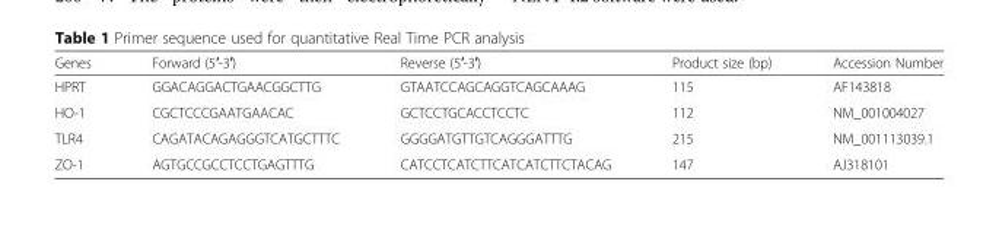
<table><thead><tr><td>Genes</td><td>Forward (5′-3′)</td><td>Reverse (5′-3′)</td><td>Product size (bp)</td><td>Accession Number</td></tr></thead><tbody><tr><td>HPRT</td><td>GGACAGGACTGAACGGCTTG</td><td>GTAATCCAGCAGGTCAGCAAAG</td><td>115</td><td>AF143818</td></tr><tr><td>HO-1</td><td>CGCTCCCGAATGAACAC</td><td>GCTCCTGCACCTCCTC</td><td>112</td><td>NM_001004027</td></tr><tr><td>TLR4</td><td>CAGATACAGAGGGTCATGCTTTC</td><td>GGGGATGTTGTCAGGGATTTG</td><td>215</td><td>NM_001113039.1</td></tr><tr><td>ZO-1</td><td>AGTGCCGCCTCCTGAGTTTG</td><td>CATCCTCATCTTCATCATCTTCTACAG</td><td>147</td><td>AJ318101</td></tr></tbody></table>